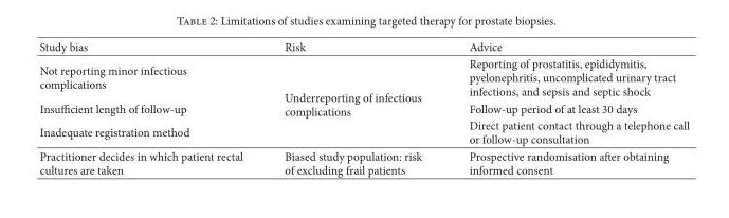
<table><thead><tr><td>Study bias</td><td>Risk</td><td>Advice</td></tr></thead><tbody><tr><td>Not reporting minor infectious complications</td><td rowspan="3">Underreporting of infectious complications</td><td>Reporting of prostatitis, epididymitis, pyelonephritis, uncomplicated urinary tract infections, and sepsis and septic shock</td></tr><tr><td>Insufficient length of follow-up</td><td>Follow-up period of at least 30 days</td></tr><tr><td>Inadequate registration method</td><td>Direct patient contact through a telephone call or follow-up consultation</td></tr><tr><td>Practitioner decides in which patient rectal cultures are taken</td><td>Biased study population: risk of excluding frail patients</td><td>Prospective randomisation after obtaining informed consent</td></tr></tbody></table>